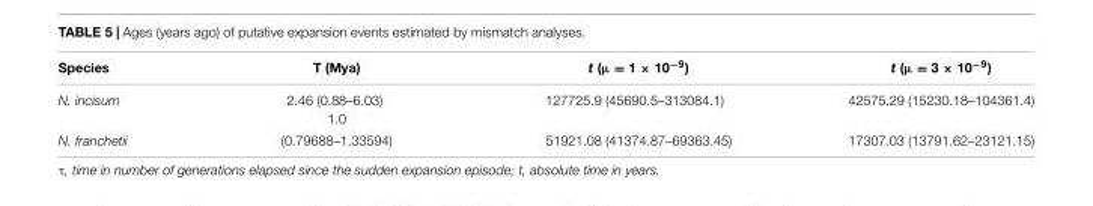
<table><thead><tr><td>Species</td><td>T (Mya)</td><td>t (µ = 1 × 10<sup>−9</sup>)</td><td>t (µ = 3 × 10<sup>−9</sup>)</td></tr></thead><tbody><tr><td>N. incisum</td><td>2.46 (0.88–6.03) 1.0</td><td>127725.9 (45690.5–313084.1)</td><td>42575.29 (15230.18–104361.4)</td></tr><tr><td>N. franchetii</td><td>(0.79688–1.33594)</td><td>51921.08 (41374.87–69363.45)</td><td>17307.03 (13791.62–23121.15)</td></tr></tbody></table>